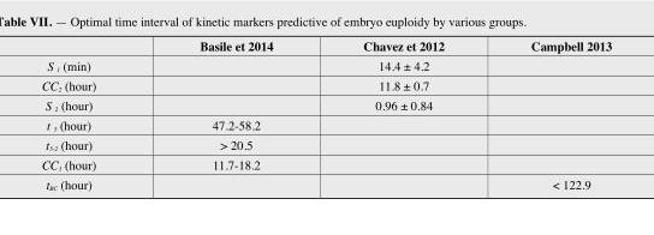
<table><thead><tr><td></td><td>Basile et 2014</td><td>Chavez et 2012</td><td>Campbell 2013</td></tr></thead><tbody><tr><td>S <sub>1</sub> (min)</td><td></td><td>14.4 ± 4.2</td><td></td></tr><tr><td>CC<sub>2</sub> (hour)</td><td></td><td>11.8 ± 0.7</td><td></td></tr><tr><td>S <sub>2</sub> (hour)</td><td></td><td>0.96 ± 0.84</td><td></td></tr><tr><td>t <sub>5</sub> (hour)</td><td>47.2-58.2</td><td></td><td></td></tr><tr><td>t<sub>5-2</sub> (hour)</td><td>&gt; 20.5</td><td></td><td></td></tr><tr><td>CC<sub>3</sub> (hour)</td><td>11.7-18.2</td><td></td><td></td></tr><tr><td>t<sub>BC</sub> (hour)</td><td></td><td></td><td>&lt; 122.9</td></tr></tbody></table>